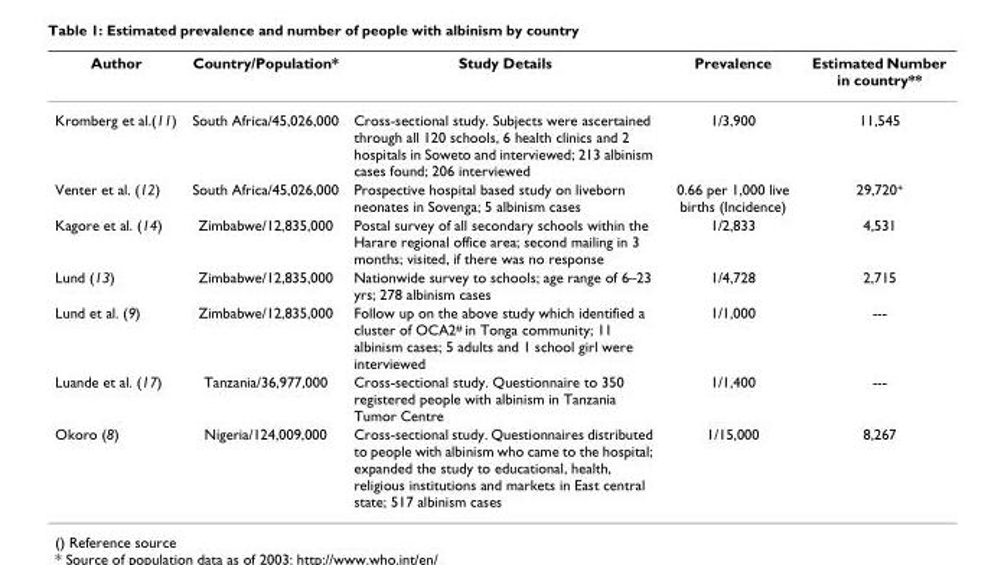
<table><thead><tr><td>Author</td><td>Country/Population*</td><td>Study Details</td><td>Prevalence</td><td>Estimated Number in country**</td></tr></thead><tbody><tr><td>Kromberg et al.(11)</td><td>South Africa/45,026,000</td><td>Cross-sectional study. Subjects were ascertained through all 120 schools, 6 health clinics and 2 hospitals in Soweto and interviewed; 213 albinism cases found; 206 interviewed</td><td>1/3,900</td><td>11,545</td></tr><tr><td>Venter et al. (12)</td><td>South Africa/45,026,000</td><td>Prospective hospital based study on liveborn neonates in Sovenga; 5 albinism cases</td><td>0.66 per 1,000 live births (Incidence)</td><td>29,720+</td></tr><tr><td>Kagore et al. (14)</td><td>Zimbabwe/12,835,000</td><td>Postal survey of all secondary schools within the Harare regional office area; second mailing in 3 months; visited, if there was no response</td><td>1/2,833</td><td>4,531</td></tr><tr><td>Lund (13)</td><td>Zimbabwe/12,835,000</td><td>Nationwide survey to schools; age range of 6–23 yrs; 278 albinism cases</td><td>1/4,728</td><td>2,715</td></tr><tr><td>Lund et al. (9)</td><td>Zimbabwe/12,835,000</td><td>Follow up on the above study which identified a cluster of OCA2# in Tonga community; 11 albinism cases; 5 adults and 1 school girl were interviewed</td><td>1/1,000</td><td>---</td></tr><tr><td>Luande et al. (17)</td><td>Tanzania/36,977,000</td><td>Cross-sectional study. Questionnaire to 350 registered people with albinism in Tanzania Tumor Centre</td><td>1/1,400</td><td>---</td></tr><tr><td>Okoro (8)</td><td>Nigeria/124,009,000</td><td>Cross-sectional study. Questionnaires distributed to people with albinism who came to the hospital; expanded the study to educational, health, religious institutions and markets in East central state; 517 albinism cases</td><td>1/15,000</td><td>8,267</td></tr></tbody></table>